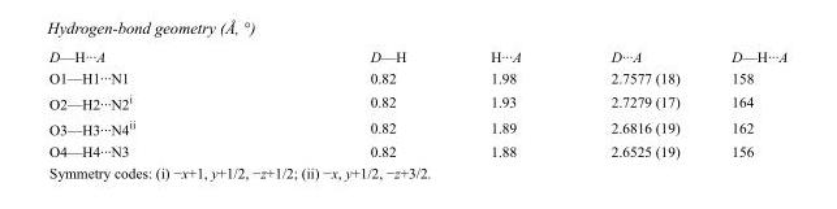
<table><tbody><tr><td>D—H···A</td><td>D—H</td><td>H···A</td><td>D···A</td><td>D—H···A</td></tr><tr><td>O1—H1···N1</td><td>0.82</td><td>1.98</td><td>2.7577 (18)</td><td>158</td></tr><tr><td>O2—H2···N2<sup>i</sup></td><td>0.82</td><td>1.93</td><td>2.7279 (17)</td><td>164</td></tr><tr><td>O3—H3···N4<sup>ii</sup></td><td>0.82</td><td>1.89</td><td>2.6816 (19)</td><td>162</td></tr><tr><td>O4—H4···N3</td><td>0.82</td><td>1.88</td><td>2.6525 (19)</td><td>156</td></tr></tbody></table>